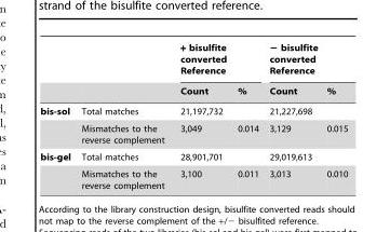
<table><thead><tr><td rowspan="2"></td><td rowspan="2"></td><td colspan="2">+ bisulfite converted Reference</td><td colspan="2">− bisulfite converted Reference</td></tr><tr><td>Count</td><td>%</td><td>Count</td><td>%</td></tr></thead><tbody><tr><td rowspan="2">bis-sol</td><td>Total matches</td><td>21,197,732</td><td></td><td>21,227,698</td><td></td></tr><tr><td>Mismatches to the reverse complement</td><td>3,049</td><td>0.014</td><td>3,129</td><td>0.015</td></tr><tr><td rowspan="2">bis-gel</td><td>Total matches</td><td>28,901,701</td><td></td><td>29,019,613</td><td></td></tr><tr><td>Mismatches to the reverse complement</td><td>3,100</td><td>0.011</td><td>3,013</td><td>0.010</td></tr></tbody></table>